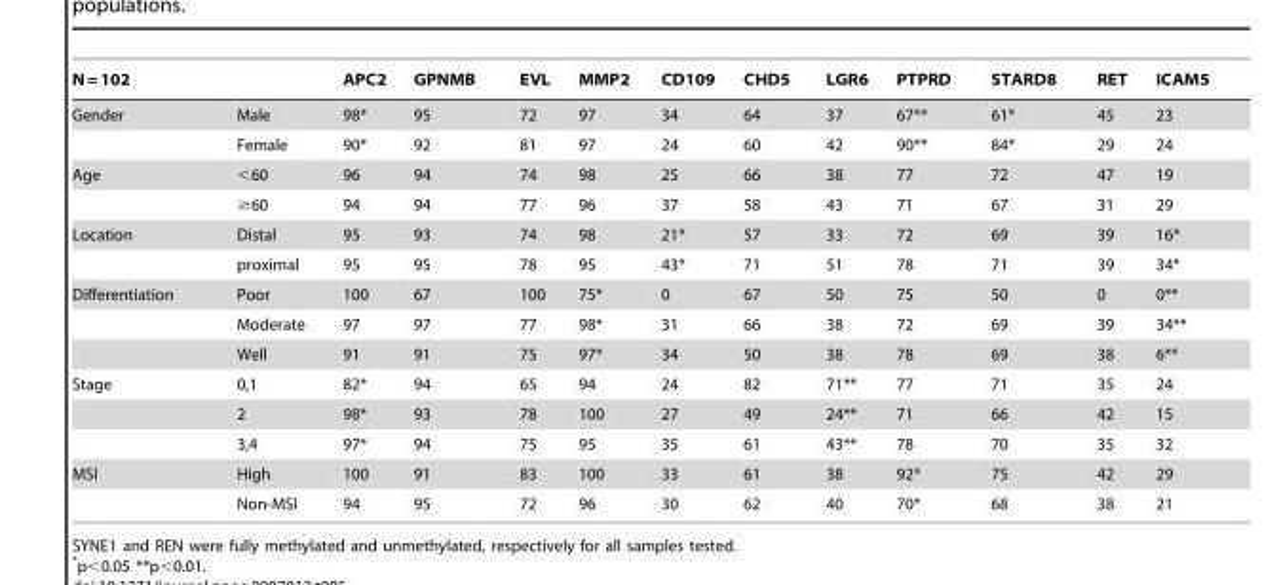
<table><thead><tr><td>N = 102</td><td></td><td>APC2</td><td>GPNMB</td><td>EVL</td><td>MMP2</td><td>CD109</td><td>CHD5</td><td>LGR6</td><td>PTPRD</td><td>STARD8</td><td>RET</td><td>ICAM5</td></tr></thead><tbody><tr><td rowspan="2">Gender</td><td>Male</td><td>98*</td><td>95</td><td>72</td><td>97</td><td>34</td><td>64</td><td>37</td><td>67**</td><td>61*</td><td>45</td><td>23</td></tr><tr><td>Female</td><td>90*</td><td>92</td><td>81</td><td>97</td><td>24</td><td>60</td><td>42</td><td>90**</td><td>84*</td><td>29</td><td>24</td></tr><tr><td rowspan="2">Age</td><td>&lt;60</td><td>96</td><td>94</td><td>74</td><td>98</td><td>25</td><td>66</td><td>38</td><td>77</td><td>72</td><td>47</td><td>19</td></tr><tr><td>≥60</td><td>94</td><td>94</td><td>77</td><td>96</td><td>37</td><td>58</td><td>43</td><td>71</td><td>67</td><td>31</td><td>29</td></tr><tr><td rowspan="2">Location</td><td>Distal</td><td>95</td><td>93</td><td>74</td><td>98</td><td>21*</td><td>57</td><td>33</td><td>72</td><td>69</td><td>39</td><td>16*</td></tr><tr><td>proximal</td><td>95</td><td>95</td><td>78</td><td>95</td><td>43*</td><td>71</td><td>51</td><td>78</td><td>71</td><td>39</td><td>34*</td></tr><tr><td rowspan="3">Differentiation</td><td>Poor</td><td>100</td><td>67</td><td>100</td><td>75*</td><td>0</td><td>67</td><td>50</td><td>75</td><td>50</td><td>0</td><td>0**</td></tr><tr><td>Moderate</td><td>97</td><td>97</td><td>77</td><td>98*</td><td>31</td><td>66</td><td>38</td><td>72</td><td>69</td><td>39</td><td>34**</td></tr><tr><td>Well</td><td>91</td><td>91</td><td>75</td><td>97*</td><td>34</td><td>50</td><td>38</td><td>78</td><td>69</td><td>38</td><td>6**</td></tr><tr><td rowspan="3">Stage</td><td>0,1</td><td>82*</td><td>94</td><td>65</td><td>94</td><td>24</td><td>82</td><td>71**</td><td>77</td><td>71</td><td>35</td><td>24</td></tr><tr><td>2</td><td>98*</td><td>93</td><td>78</td><td>100</td><td>27</td><td>49</td><td>24**</td><td>71</td><td>66</td><td>42</td><td>15</td></tr><tr><td>3,4</td><td>97*</td><td>94</td><td>75</td><td>95</td><td>35</td><td>61</td><td>43**</td><td>78</td><td>70</td><td>35</td><td>32</td></tr><tr><td rowspan="2">MSI</td><td>High</td><td>100</td><td>91</td><td>83</td><td>100</td><td>33</td><td>61</td><td>38</td><td>92*</td><td>75</td><td>42</td><td>29</td></tr><tr><td>Non-MSI</td><td>94</td><td>95</td><td>72</td><td>96</td><td>30</td><td>62</td><td>40</td><td>70*</td><td>68</td><td>38</td><td>21</td></tr></tbody></table>